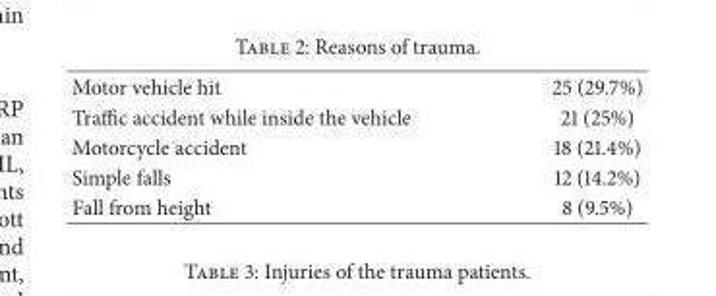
<table><tbody><tr><td>Motor vehicle hit</td><td>25 (29.7%)</td></tr><tr><td>Traffic accident while inside the vehicle</td><td>21 (25%)</td></tr><tr><td>Motorcycle accident</td><td>18 (21.4%)</td></tr><tr><td>Simple falls</td><td>12 (14.2%)</td></tr><tr><td>Fall from height</td><td>8 (9.5%)</td></tr></tbody></table>